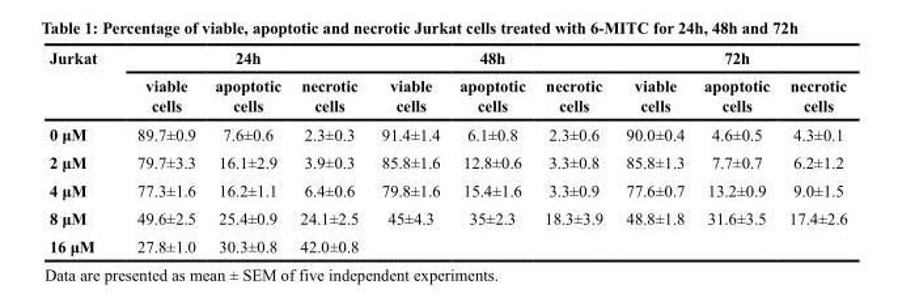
<table><thead><tr><td rowspan="2">Jurkat</td><td rowspan="2">viable cells</td><td rowspan="2">24h apoptotic cells</td><td rowspan="2">necrotic cells</td><td rowspan="2">viable cells</td><td rowspan="2">48h apoptotic cells</td><td rowspan="2">necrotic cells</td><td rowspan="2">viable cells</td><td rowspan="2">72h apoptotic cells</td><td rowspan="2">necrotic cells</td></tr><tr></tr></thead><tbody><tr><td>0 μM</td><td>89.7±0.9</td><td>7.6±0.6</td><td>2.3±0.3</td><td>91.4±1.4</td><td>6.1±0.8</td><td>2.3±0.6</td><td>90.0±0.4</td><td>4.6±0.5</td><td>4.3±0.1</td></tr><tr><td>2 μM</td><td>79.7±3.3</td><td>16.1±2.9</td><td>3.9±0.3</td><td>85.8±1.6</td><td>12.8±0.6</td><td>3.3±0.8</td><td>85.8±1.3</td><td>7.7±0.7</td><td>6.2±1.2</td></tr><tr><td>4 μM</td><td>77.3±1.6</td><td>16.2±1.1</td><td>6.4±0.6</td><td>79.8±1.6</td><td>15.4±1.6</td><td>3.3±0.9</td><td>77.6±0.7</td><td>13.2±0.9</td><td>9.0±1.5</td></tr><tr><td>8 μM</td><td>49.6±2.5</td><td>25.4±0.9</td><td>24.1±2.5</td><td>45±4.3</td><td>35±2.3</td><td>18.3±3.9</td><td>48.8±1.8</td><td>31.6±3.5</td><td>17.4±2.6</td></tr><tr><td>16 μM</td><td>27.8±1.0</td><td>30.3±0.8</td><td>42.0±0.8</td><td></td><td></td><td></td><td></td><td></td><td></td></tr></tbody></table>